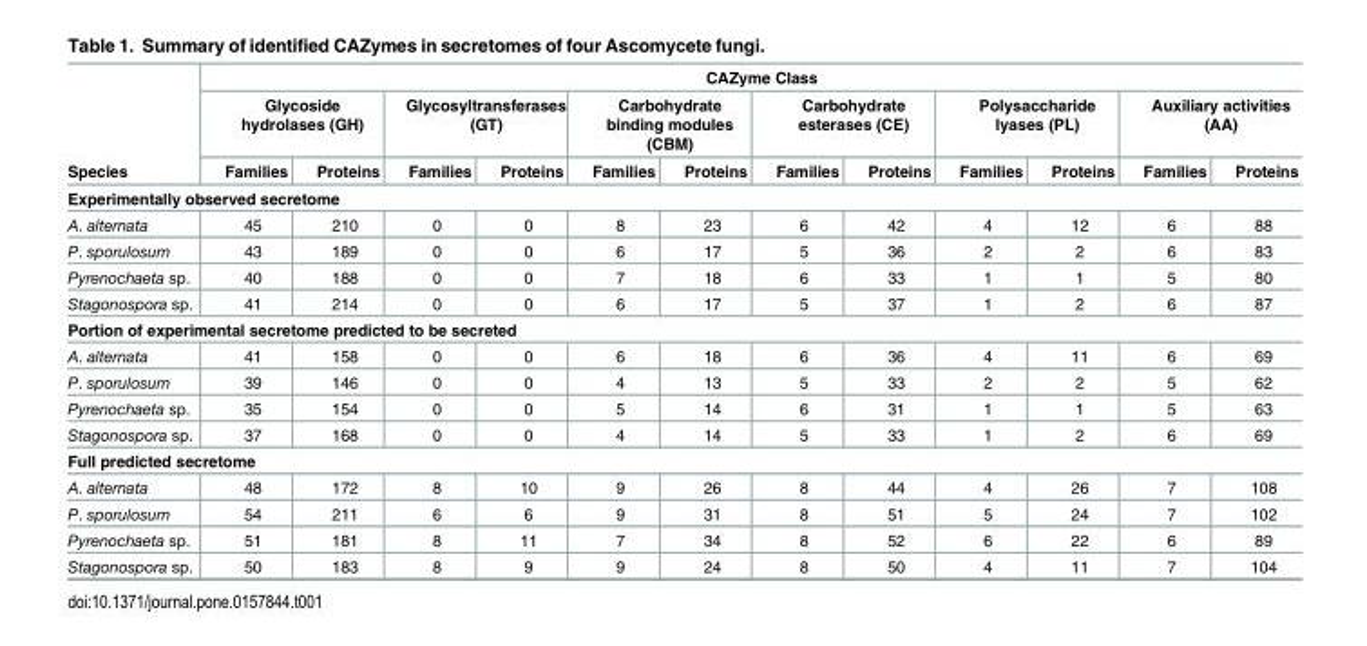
<table><thead><tr><td rowspan="3">Species</td><td colspan="12">CAZyme Class</td></tr><tr><td colspan="2">Glycoside hydrolases (GH)</td><td colspan="2">Glycosyltransferases (GT)</td><td colspan="2">Carbohydrate binding modules (CBM)</td><td colspan="2">Carbohydrate esterases (CE)</td><td colspan="2">Polysaccharide lyases (PL)</td><td colspan="2">Auxiliary activities (AA)</td></tr><tr><td>Families</td><td>Proteins</td><td>Families</td><td>Proteins</td><td>Families</td><td>Proteins</td><td>Families</td><td>Proteins</td><td>Families</td><td>Proteins</td><td>Families</td><td>Proteins</td></tr></thead><tbody><tr><td colspan="13">Experimentally observed secretome</td></tr><tr><td>A. alternata</td><td>45</td><td>210</td><td>0</td><td>0</td><td>8</td><td>23</td><td>6</td><td>42</td><td>4</td><td>12</td><td>6</td><td>88</td></tr><tr><td>P. sporulosum</td><td>43</td><td>189</td><td>0</td><td>0</td><td>6</td><td>17</td><td>5</td><td>36</td><td>2</td><td>2</td><td>6</td><td>83</td></tr><tr><td>Pyrenochaeta sp.</td><td>40</td><td>188</td><td>0</td><td>0</td><td>7</td><td>18</td><td>6</td><td>33</td><td>1</td><td>1</td><td>5</td><td>80</td></tr><tr><td>Stagonospora sp.</td><td>41</td><td>214</td><td>0</td><td>0</td><td>6</td><td>17</td><td>5</td><td>37</td><td>1</td><td>2</td><td>6</td><td>87</td></tr><tr><td colspan="13">Portion of experimental secretome predicted to be secreted</td></tr><tr><td>A. alternata</td><td>41</td><td>158</td><td>0</td><td>0</td><td>6</td><td>18</td><td>6</td><td>36</td><td>4</td><td>11</td><td>6</td><td>69</td></tr><tr><td>P. sporulosum</td><td>39</td><td>146</td><td>0</td><td>0</td><td>4</td><td>13</td><td>5</td><td>33</td><td>2</td><td>2</td><td>5</td><td>62</td></tr><tr><td>Pyrenochaeta sp.</td><td>35</td><td>154</td><td>0</td><td>0</td><td>5</td><td>14</td><td>6</td><td>31</td><td>1</td><td>1</td><td>5</td><td>63</td></tr><tr><td>Stagonospora sp.</td><td>37</td><td>168</td><td>0</td><td>0</td><td>4</td><td>14</td><td>5</td><td>33</td><td>1</td><td>2</td><td>6</td><td>69</td></tr><tr><td colspan="13">Full predicted secretome</td></tr><tr><td>A. alternata</td><td>48</td><td>172</td><td>8</td><td>10</td><td>9</td><td>26</td><td>8</td><td>44</td><td>4</td><td>26</td><td>7</td><td>108</td></tr><tr><td>P. sporulosum</td><td>54</td><td>211</td><td>6</td><td>6</td><td>9</td><td>31</td><td>8</td><td>51</td><td>5</td><td>24</td><td>7</td><td>102</td></tr><tr><td>Pyrenochaeta sp.</td><td>51</td><td>181</td><td>8</td><td>11</td><td>7</td><td>34</td><td>8</td><td>52</td><td>6</td><td>22</td><td>6</td><td>89</td></tr><tr><td>Stagonospora sp.</td><td>50</td><td>183</td><td>8</td><td>9</td><td>9</td><td>24</td><td>8</td><td>50</td><td>4</td><td>11</td><td>7</td><td>104</td></tr></tbody></table>